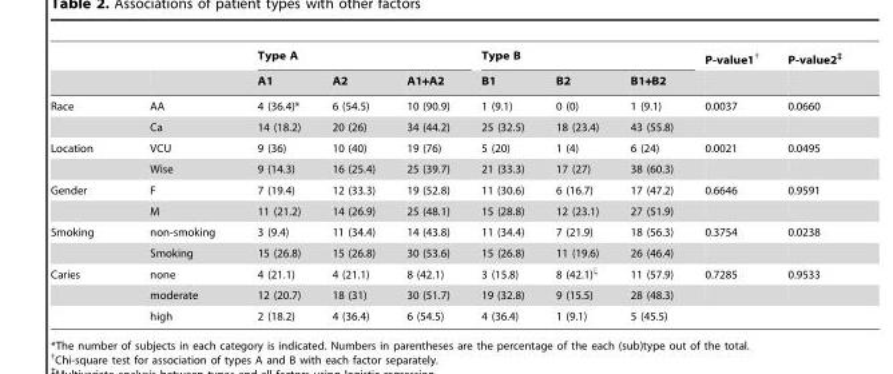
<table><thead><tr><td rowspan="2"></td><td rowspan="2"></td><td colspan="3">Type A</td><td colspan="3">Type B</td><td rowspan="2">P-value1†</td><td rowspan="2">P-value2‡</td></tr><tr><td>A1</td><td>A2</td><td>A1+A2</td><td>B1</td><td>B2</td><td>B1+B2</td></tr></thead><tbody><tr><td rowspan="2">Race</td><td>AA</td><td>4 (36.4)*</td><td>6 (54.5)</td><td>10 (90.9)</td><td>1 (9.1)</td><td>0 (0)</td><td>1 (9.1)</td><td>0.0037</td><td>0.0660</td></tr><tr><td>Ca</td><td>14 (18.2)</td><td>20 (26)</td><td>34 (44.2)</td><td>25 (32.5)</td><td>18 (23.4)</td><td>43 (55.8)</td><td></td><td></td></tr><tr><td rowspan="2">Location</td><td>VCU</td><td>9 (36)</td><td>10 (40)</td><td>19 (76)</td><td>5 (20)</td><td>1 (4)</td><td>6 (24)</td><td>0.0021</td><td>0.0495</td></tr><tr><td>Wise</td><td>9 (14.3)</td><td>16 (25.4)</td><td>25 (39.7)</td><td>21 (33.3)</td><td>17 (27)</td><td>38 (60.3)</td><td></td><td></td></tr><tr><td rowspan="2">Gender</td><td>F</td><td>7 (19.4)</td><td>12 (33.3)</td><td>19 (52.8)</td><td>11 (30.6)</td><td>6 (16.7)</td><td>17 (47.2)</td><td>0.6646</td><td>0.9591</td></tr><tr><td>M</td><td>11 (21.2)</td><td>14 (26.9)</td><td>25 (48.1)</td><td>15 (28.8)</td><td>12 (23.1)</td><td>27 (51.9)</td><td></td><td></td></tr><tr><td rowspan="2">Smoking</td><td>non-smoking</td><td>3 (9.4)</td><td>11 (34.4)</td><td>14 (43.8)</td><td>11 (34.4)</td><td>7 (21.9)</td><td>18 (56.3)</td><td>0.3754</td><td>0.0238</td></tr><tr><td>Smoking</td><td>15 (26.8)</td><td>15 (26.8)</td><td>30 (53.6)</td><td>15 (26.8)</td><td>11 (19.6)</td><td>26 (46.4)</td><td></td><td></td></tr><tr><td rowspan="3">Caries</td><td>none</td><td>4 (21.1)</td><td>4 (21.1)</td><td>8 (42.1)</td><td>3 (15.8)</td><td>8 (42.1)ξ</td><td>11 (57.9)</td><td>0.7285</td><td>0.9533</td></tr><tr><td>moderate</td><td>12 (20.7)</td><td>18 (31)</td><td>30 (51.7)</td><td>19 (32.8)</td><td>9 (15.5)</td><td>28 (48.3)</td><td></td><td></td></tr><tr><td>high</td><td>2 (18.2)</td><td>4 (36.4)</td><td>6 (54.5)</td><td>4 (36.4)</td><td>1 (9.1)</td><td>5 (45.5)</td><td></td><td></td></tr></tbody></table>